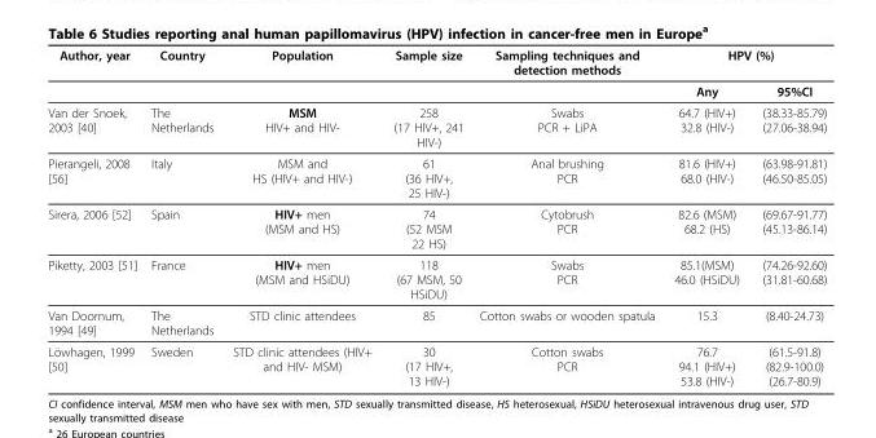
<table><thead><tr><td rowspan="2">Author, year</td><td rowspan="2">Country</td><td rowspan="2">Population</td><td rowspan="2">Sample size</td><td rowspan="2">Sampling techniques and detection methods</td><td colspan="2">HPV (%)</td></tr><tr><td>Any</td><td>95%CI</td></tr></thead><tbody><tr><td>Van der Snoek, 2003 [40]</td><td>The Netherlands</td><td>MSM HIV+ and HIV-</td><td>258 (17 HIV+, 241 HIV-)</td><td>Swabs PCR + LiPA</td><td>64.7 (HIV+) 32.8 (HIV-)</td><td>(38.33-85.79) (27.06-38.94)</td></tr><tr><td>Pierangeli, 2008 [56]</td><td>Italy</td><td>MSM and HS (HIV+ and HIV-)</td><td>61 (36 HIV+, 25 HIV-)</td><td>Anal brushing PCR</td><td>81.6 (HIV+) 68.0 (HIV-)</td><td>(63.98-91.81) (46.50-85.05)</td></tr><tr><td>Sirera, 2006 [52]</td><td>Spain</td><td>HIV+ men (MSM and HS)</td><td>74 (52 MSM 22 HS)</td><td>Cytobrush PCR</td><td>82.6 (MSM) 68.2 (HS)</td><td>(69.67-91.77) (45.13-86.14)</td></tr><tr><td>Piketty, 2003 [51]</td><td>France</td><td>HIV+ men (MSM and HSiDU)</td><td>118 (67 MSM, 50 HSiDU)</td><td>Swabs PCR</td><td>85.1(MSM) 46.0 (HSiDU)</td><td>(74.26-92.60) (31.81-60.68)</td></tr><tr><td>Van Doornum, 1994 [49]</td><td>The Netherlands</td><td>STD clinic attendees</td><td>85</td><td>Cotton swabs or wooden spatula</td><td>15.3</td><td>(8.40-24.73)</td></tr><tr><td>Löwhagen, 1999 [50]</td><td>Sweden</td><td>STD clinic attendees (HIV+ and HIV- MSM)</td><td>30 (17 HIV+, 13 HIV-)</td><td>Cotton swabs PCR</td><td>76.7 94.1 (HIV+) 53.8 (HIV-)</td><td>(61.5-91.8) (82.9-100.0) (26.7-80.9)</td></tr></tbody></table>